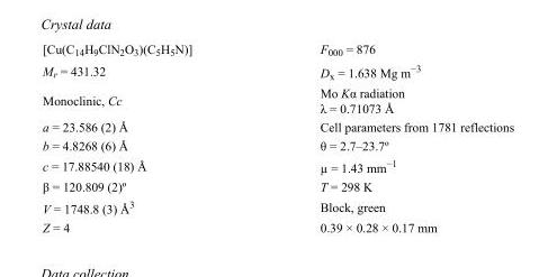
<table><tbody><tr><td>[Cu(C<sub>14</sub>H<sub>9</sub>ClN<sub>2</sub>O<sub>3</sub>)(C<sub>5</sub>H<sub>5</sub>N)]</td><td>F000 = 876</td></tr><tr><td>M<sub>r</sub> = 431.32</td><td>D<sub>x</sub> = 1.638 Mg m<sup>−3</sup></td></tr><tr><td>Monoclinic, Cc</td><td>Mo Kα radiation λ = 0.71073 Å</td></tr><tr><td>a = 23.586 (2) Å</td><td>Cell parameters from 1781 reflections</td></tr><tr><td>b = 4.8268 (6) Å</td><td>θ = 2.7–23.7º</td></tr><tr><td>c = 17.88540 (18) Å</td><td>µ = 1.43 mm<sup>−1</sup></td></tr><tr><td>β = 120.809 (2)º</td><td>T = 298 K</td></tr><tr><td>V = 1748.8 (3) Å<sup>3</sup></td><td>Block, green</td></tr><tr><td>Z = 4</td><td>0.39 × 0.28 × 0.17 mm</td></tr></tbody></table>